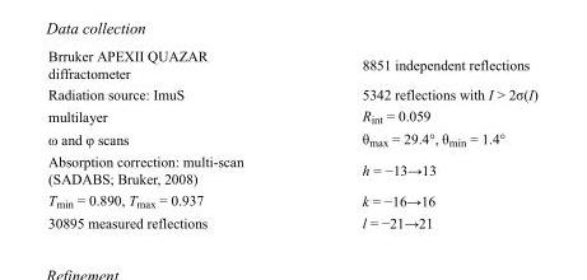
<table><tbody><tr><td>Brruker APEXII QUAZAR diffractometer</td><td>8851 independent reflections</td></tr><tr><td>Radiation source: ImuS</td><td>5342 reflections with I &gt; 2σ(I)</td></tr><tr><td>multilayer</td><td>R<sub>int</sub> = 0.059</td></tr><tr><td>ω and φ scans</td><td>θ<sub>max</sub> = 29.4°, θ<sub>min</sub> = 1.4°</td></tr><tr><td>Absorption correction: multi-scan (SADABS; Bruker, 2008)</td><td>h = −13→13</td></tr><tr><td>T<sub>min</sub> = 0.890, T<sub>max</sub> = 0.937</td><td>k = −16→16</td></tr><tr><td>30895 measured reflections</td><td>l = −21→21</td></tr></tbody></table>